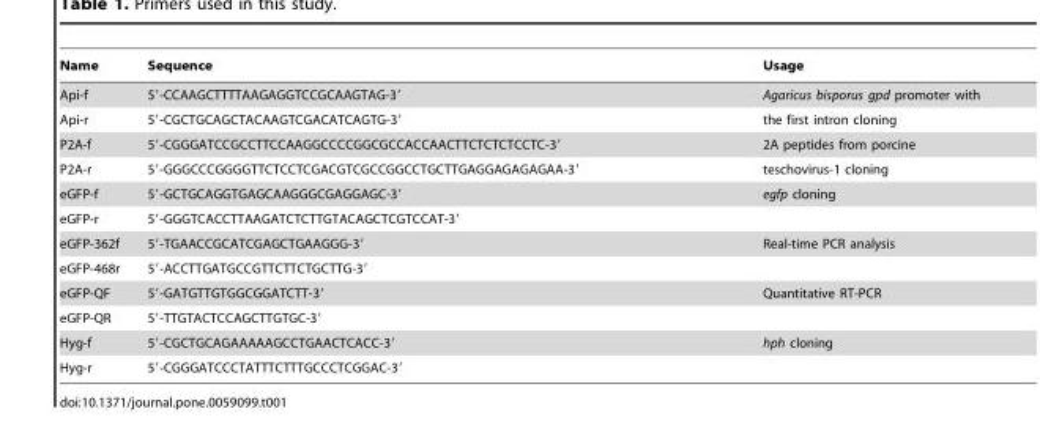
<table><thead><tr><td>Name</td><td>Sequence</td><td>Usage</td></tr></thead><tbody><tr><td>Api-f</td><td>5′-CCAAGCTTTTAAGAGGTCCGCAAGTAG-3′</td><td>Agaricus bisporus gpd promoter with</td></tr><tr><td>Api-r</td><td>5′-CGCTGCAGCTACAAGTCGACATCAGTG-3′</td><td>the first intron cloning</td></tr><tr><td>P2A-f</td><td>5′-CGGGATCCGCCTTCCAAGGCCCCGGCGCCACCAACTTCTCTCTCCTC-3′</td><td>2A peptides from porcine</td></tr><tr><td>P2A-r</td><td>5′-GGGCCCGGGGTTCTCCTCGACGTCGCCGGCCTGCTTGAGGAGAGAGAA-3′</td><td>teschovirus-1 cloning</td></tr><tr><td>eGFP-f</td><td>5′-GCTGCAGGTGAGCAAGGGCGAGGAGC-3′</td><td>egfp cloning</td></tr><tr><td>eGFP-r</td><td>5′-GGGTCACCTTAAGATCTCTTGTACAGCTCGTCCAT-3′</td><td></td></tr><tr><td>eGFP-362f</td><td>5′-TGAACCGCATCGAGCTGAAGGG-3′</td><td>Real-time PCR analysis</td></tr><tr><td>eGFP-468r</td><td>5′-ACCTTGATGCCGTTCTTCTGCTTG-3′</td><td></td></tr><tr><td>eGFP-QF</td><td>5′-GATGTTGTGGCGGATCTT-3′</td><td>Quantitative RT-PCR</td></tr><tr><td>eGFP-QR</td><td>5′-TTGTACTCCAGCTTGTGC-3′</td><td></td></tr><tr><td>Hyg-f</td><td>5′-CGCTGCAGAAAAAGCCTGAACTCACC-3′</td><td>hph cloning</td></tr><tr><td>Hyg-r</td><td>5′-CGGGATCCCTATTTCTTTGCCCTCGGAC-3′</td><td></td></tr></tbody></table>